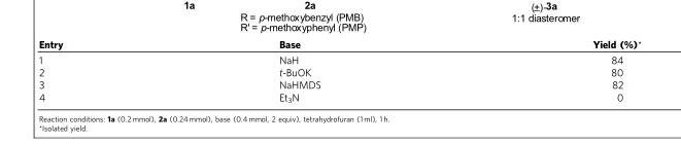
<table><thead><tr><td>Entry</td><td>Base</td><td>Yield (%)*</td></tr></thead><tbody><tr><td>1</td><td>NaH</td><td>84</td></tr><tr><td>2</td><td>t-BuOK</td><td>80</td></tr><tr><td>3</td><td>NaHMDS</td><td>82</td></tr><tr><td>4</td><td>Et<sub>3</sub>N</td><td>0</td></tr></tbody></table>